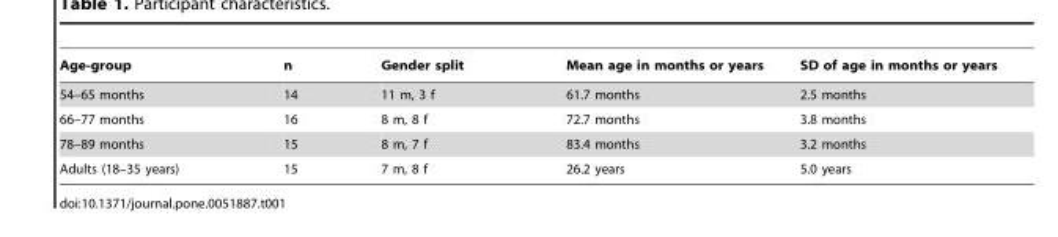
<table><thead><tr><td>Age-group</td><td>n</td><td>Gender split</td><td>Mean age in months or years</td><td>SD of age in months or years</td></tr></thead><tbody><tr><td>54–65 months</td><td>14</td><td>11 m, 3 f</td><td>61.7 months</td><td>2.5 months</td></tr><tr><td>66–77 months</td><td>16</td><td>8 m, 8 f</td><td>72.7 months</td><td>3.8 months</td></tr><tr><td>78–89 months</td><td>15</td><td>8 m, 7 f</td><td>83.4 months</td><td>3.2 months</td></tr><tr><td>Adults (18–35 years)</td><td>15</td><td>7 m, 8 f</td><td>26.2 years</td><td>5.0 years</td></tr></tbody></table>